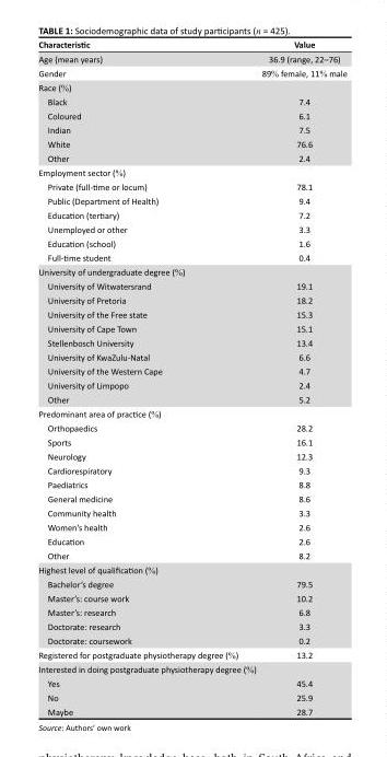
<table><thead><tr><td>Characteristic</td><td>Value</td></tr></thead><tbody><tr><td>Age (mean years)</td><td>36.9 (range, 22–76)</td></tr><tr><td>Gender</td><td>89% female, 11% male</td></tr><tr><td colspan="2">Race (%)</td></tr><tr><td>Black</td><td>7.4</td></tr><tr><td>Coloured</td><td>6.1</td></tr><tr><td>Indian</td><td>7.5</td></tr><tr><td>White</td><td>76.6</td></tr><tr><td>Other</td><td>2.4</td></tr><tr><td colspan="2">Employment sector (%)</td></tr><tr><td>Private (full-time or locum)</td><td>78.1</td></tr><tr><td>Public (Department of Health)</td><td>9.4</td></tr><tr><td>Education (tertiary)</td><td>7.2</td></tr><tr><td>Unemployed or other</td><td>3.3</td></tr><tr><td>Education (school)</td><td>1.6</td></tr><tr><td>Full-time student</td><td>0.4</td></tr><tr><td colspan="2">University of undergraduate degree (%)</td></tr><tr><td>University of Witwatersrand</td><td>19.1</td></tr><tr><td>University of Pretoria</td><td>18.2</td></tr><tr><td>University of the Free state</td><td>15.3</td></tr><tr><td>University of Cape Town</td><td>15.1</td></tr><tr><td>Stellenbosch University</td><td>13.4</td></tr><tr><td>University of KwaZulu-Natal</td><td>6.6</td></tr><tr><td>University of the Western Cape</td><td>4.7</td></tr><tr><td>University of Limpopo</td><td>2.4</td></tr><tr><td>Other</td><td>5.2</td></tr><tr><td colspan="2">Predominant area of practice (%)</td></tr><tr><td>Orthopaedics</td><td>28.2</td></tr><tr><td>Sports</td><td>16.1</td></tr><tr><td>Neurology</td><td>12.3</td></tr><tr><td>Cardiorespiratory</td><td>9.3</td></tr><tr><td>Paediatrics</td><td>8.8</td></tr><tr><td>General medicine</td><td>8.6</td></tr><tr><td>Community health</td><td>3.3</td></tr><tr><td>Women’s health</td><td>2.6</td></tr><tr><td>Education</td><td>2.6</td></tr><tr><td>Other</td><td>8.2</td></tr><tr><td colspan="2">Highest level of qualification (%)</td></tr><tr><td>Bachelor’s degree</td><td>79.5</td></tr><tr><td>Master’s: course work</td><td>10.2</td></tr><tr><td>Master’s: research</td><td>6.8</td></tr><tr><td>Doctorate: research</td><td>3.3</td></tr><tr><td>Doctorate: coursework</td><td>0.2</td></tr><tr><td>Registered for postgraduate physiotherapy degree (%)</td><td>13.2</td></tr><tr><td colspan="2">Interested in doing postgraduate physiotherapy degree (%)</td></tr><tr><td>Yes</td><td>45.4</td></tr><tr><td>No</td><td>25.9</td></tr><tr><td>Maybe</td><td>28.7</td></tr></tbody></table>